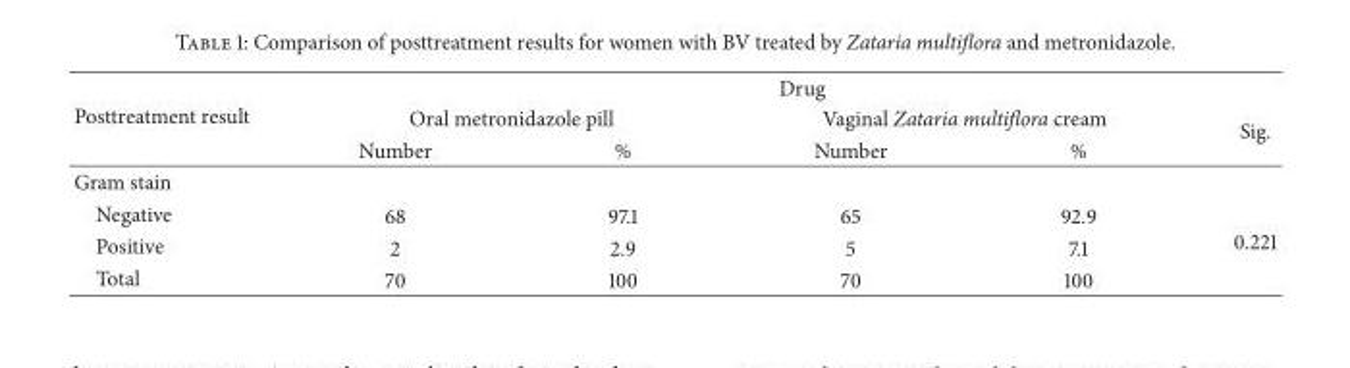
<table><thead><tr><td rowspan="3">Posttreatment result</td><td colspan="5">Drug</td></tr><tr><td colspan="2">Oral metronidazole pill</td><td colspan="2">Vaginal Zataria multiflora cream</td><td rowspan="2">Sig.</td></tr><tr><td>Number</td><td>%</td><td>Number</td><td>%</td></tr></thead><tbody><tr><td colspan="6">Gram stain</td></tr><tr><td>Negative</td><td>68</td><td>97.1</td><td>65</td><td>92.9</td><td rowspan="3">0.221</td></tr><tr><td>Positive</td><td>2</td><td>2.9</td><td>5</td><td>7.1</td></tr><tr><td>Total</td><td>70</td><td>100</td><td>70</td><td>100</td></tr></tbody></table>